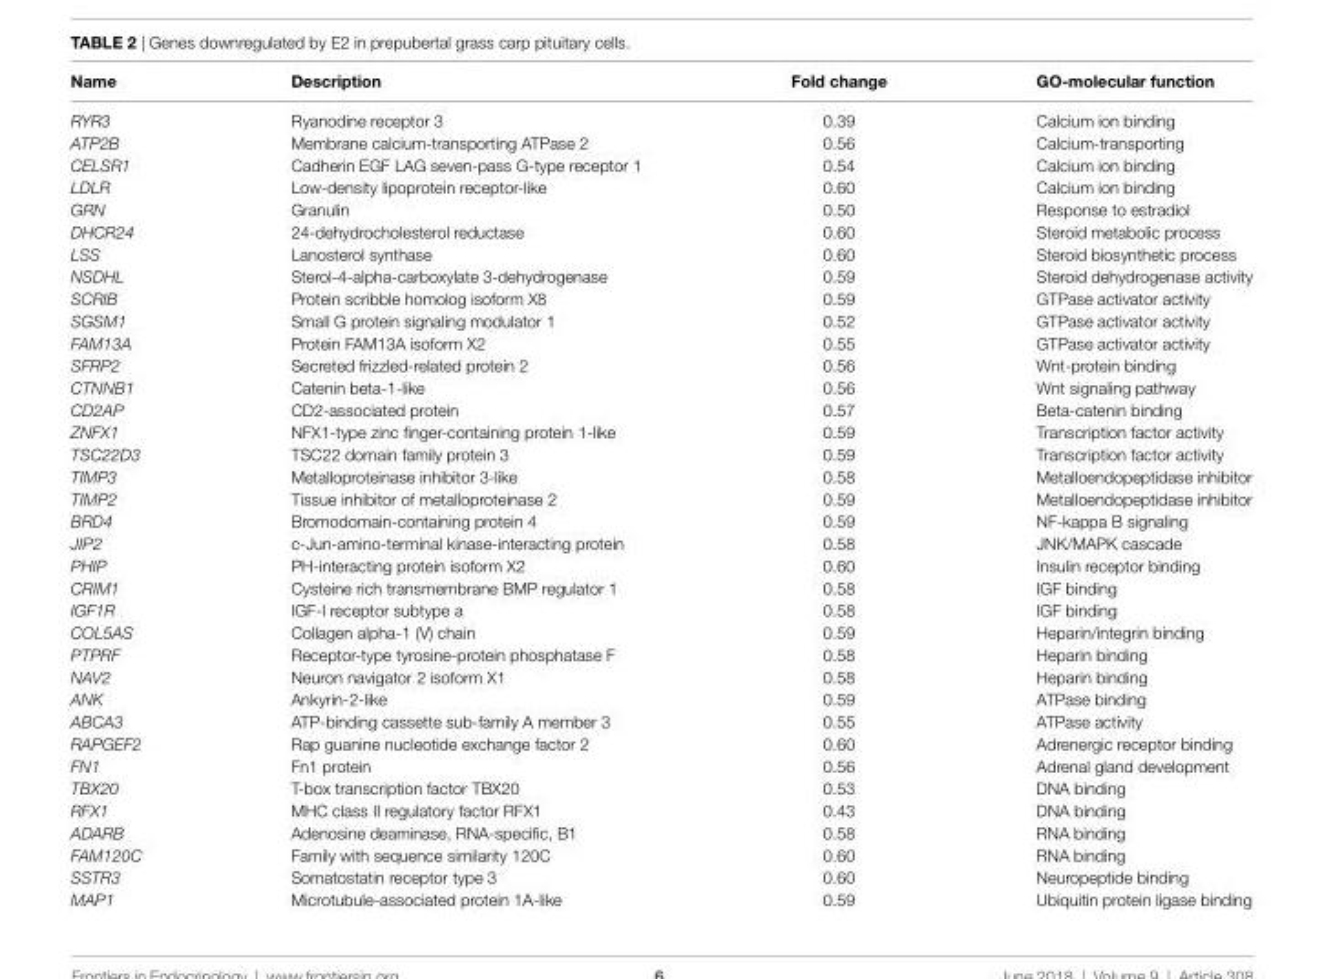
<table><thead><tr><td>name</td><td>Description</td><td>Fold change</td><td>gO-molecular function</td></tr></thead><tbody><tr><td>RYR3</td><td>Ryanodine receptor 3</td><td>0.39</td><td>Calcium ion binding</td></tr><tr><td>ATP2B</td><td>Membrane calcium-transporting ATPase 2</td><td>0.56</td><td>Calcium-transporting</td></tr><tr><td>CELSR1</td><td>Cadherin EGF LAG seven-pass G-type receptor 1</td><td>0.54</td><td>Calcium ion binding</td></tr><tr><td>LDLR</td><td>Low-density lipoprotein receptor-like</td><td>0.60</td><td>Calcium ion binding</td></tr><tr><td>GRN</td><td>Granulin</td><td>0.50</td><td>Response to estradiol</td></tr><tr><td>DHCR24</td><td>24-dehydrocholesterol reductase</td><td>0.60</td><td>Steroid metabolic process</td></tr><tr><td>LSS</td><td>Lanosterol synthase</td><td>0.60</td><td>Steroid biosynthetic process</td></tr><tr><td>NSDHL</td><td>Sterol-4-alpha-carboxylate 3-dehydrogenase</td><td>0.59</td><td>Steroid dehydrogenase activity</td></tr><tr><td>SCRIB</td><td>Protein scribble homolog isoform X8</td><td>0.59</td><td>GTPase activator activity</td></tr><tr><td>SGSM1</td><td>Small G protein signaling modulator 1</td><td>0.52</td><td>GTPase activator activity</td></tr><tr><td>FAM13A</td><td>Protein FAM13A isoform X2</td><td>0.55</td><td>GTPase activator activity</td></tr><tr><td>SFRP2</td><td>Secreted frizzled-related protein 2</td><td>0.56</td><td>Wnt-protein binding</td></tr><tr><td>CTNNB1</td><td>Catenin beta-1-like</td><td>0.56</td><td>Wnt signaling pathway</td></tr><tr><td>CD2AP</td><td>CD2-associated protein</td><td>0.57</td><td>Beta-catenin binding</td></tr><tr><td>ZNFX1</td><td>NFX1-type zinc finger-containing protein 1-like</td><td>0.59</td><td>Transcription factor activity</td></tr><tr><td>TSC22D3</td><td>TSC22 domain family protein 3</td><td>0.59</td><td>Transcription factor activity</td></tr><tr><td>TIMP3</td><td>Metalloproteinase inhibitor 3-like</td><td>0.58</td><td>Metalloendopeptidase inhibitor</td></tr><tr><td>TIMP2</td><td>Tissue inhibitor of metalloproteinase 2</td><td>0.59</td><td>Metalloendopeptidase inhibitor</td></tr><tr><td>BRD4</td><td>Bromodomain-containing protein 4</td><td>0.59</td><td>NF-kappa B signaling</td></tr><tr><td>JIP2</td><td>c-Jun-amino-terminal kinase-interacting protein</td><td>0.58</td><td>JNK/MAPK cascade</td></tr><tr><td>PHIP</td><td>PH-interacting protein isoform X2</td><td>0.60</td><td>Insulin receptor binding</td></tr><tr><td>CRIM1</td><td>Cysteine rich transmembrane BMP regulator 1</td><td>0.58</td><td>IGF binding</td></tr><tr><td>IGF1R</td><td>IGF-I receptor subtype a</td><td>0.58</td><td>IGF binding</td></tr><tr><td>COL5AS</td><td>Collagen alpha-1 (V) chain</td><td>0.59</td><td>Heparin/integrin binding</td></tr><tr><td>PTPRF</td><td>Receptor-type tyrosine-protein phosphatase F</td><td>0.58</td><td>Heparin binding</td></tr><tr><td>NAV2</td><td>Neuron navigator 2 isoform X1</td><td>0.58</td><td>Heparin binding</td></tr><tr><td>ANK</td><td>Ankyrin-2-like</td><td>0.59</td><td>ATPase binding</td></tr><tr><td>ABCA3</td><td>ATP-binding cassette sub-family A member 3</td><td>0.55</td><td>ATPase activity</td></tr><tr><td>RAPGEF2</td><td>Rap guanine nucleotide exchange factor 2</td><td>0.60</td><td>Adrenergic receptor binding</td></tr><tr><td>FN1</td><td>Fn1 protein</td><td>0.56</td><td>Adrenal gland development</td></tr><tr><td>TBX20</td><td>T-box transcription factor TBX20</td><td>0.53</td><td>DNA binding</td></tr><tr><td>RFX1</td><td>MHC class II regulatory factor RFX1</td><td>0.43</td><td>DNA binding</td></tr><tr><td>ADARB</td><td>Adenosine deaminase, RNA-specific, B1</td><td>0.58</td><td>RNA binding</td></tr><tr><td>FAM120C</td><td>Family with sequence similarity 120C</td><td>0.60</td><td>RNA binding</td></tr><tr><td>SSTR3</td><td>Somatostatin receptor type 3</td><td>0.60</td><td>Neuropeptide binding</td></tr><tr><td>MAP1</td><td>Microtubule-associated protein 1A-like</td><td>0.59</td><td>Ubiquitin protein ligase binding</td></tr></tbody></table>